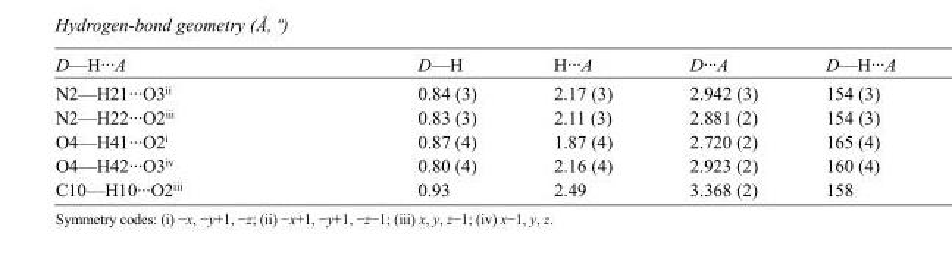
<table><tbody><tr><td>D—H···A</td><td>D—H</td><td>H···A</td><td>D···A</td><td>D—H···A</td></tr><tr><td>N2—H21···O3<sup>ii</sup></td><td>0.84 (3)</td><td>2.17 (3)</td><td>2.942 (3)</td><td>154 (3)</td></tr><tr><td>N2—H22···O2<sup>iii</sup></td><td>0.83 (3)</td><td>2.11 (3)</td><td>2.881 (2)</td><td>154 (3)</td></tr><tr><td>O4—H41···O2<sup>i</sup></td><td>0.87 (4)</td><td>1.87 (4)</td><td>2.720 (2)</td><td>165 (4)</td></tr><tr><td>O4—H42···O3<sup>iv</sup></td><td>0.80 (4)</td><td>2.16 (4)</td><td>2.923 (2)</td><td>160 (4)</td></tr><tr><td>C10—H10···O2<sup>iii</sup></td><td>0.93</td><td>2.49</td><td>3.368 (2)</td><td>158</td></tr></tbody></table>